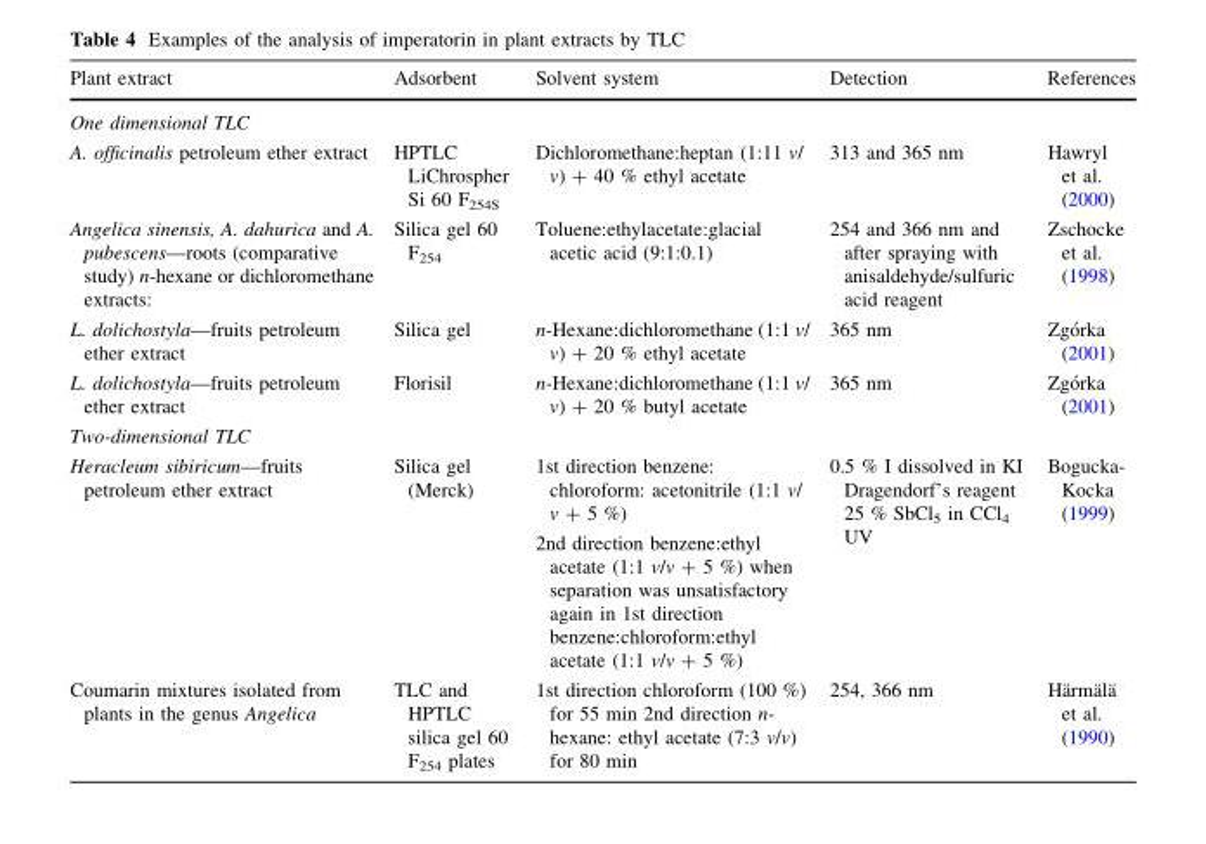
<table><thead><tr><td>Plant extract</td><td>Adsorbent</td><td>Solvent system</td><td>Detection</td><td>References</td></tr></thead><tbody><tr><td colspan="5">One dimensional TLC</td></tr><tr><td>A. officinalis petroleum ether extract</td><td>HPTLC LiChrospher Si 60 F<sub>254S</sub></td><td>Dichloromethane:heptan (1:11 v/ v) + 40 % ethyl acetate</td><td>313 and 365 nm</td><td>Hawryl et al. (2000)</td></tr><tr><td>Angelica sinensis, A. dahurica and A. pubescens—roots (comparative study) n-hexane or dichloromethane extracts:</td><td>Silica gel 60 F<sub>254</sub></td><td>Toluene:ethylacetate:glacial acetic acid (9:1:0.1)</td><td>254 and 366 nm and after spraying with anisaldehyde/sulfuric acid reagent</td><td>Zschocke et al. (1998)</td></tr><tr><td>L. dolichostyla—fruits petroleum ether extract</td><td>Silica gel</td><td>n-Hexane:dichloromethane (1:1 v/ v) + 20 % ethyl acetate</td><td>365 nm</td><td>Zgo´rka (2001)</td></tr><tr><td>L. dolichostyla—fruits petroleum ether extract</td><td>Florisil</td><td>n-Hexane:dichloromethane (1:1 v/ v) + 20 % butyl acetate</td><td>365 nm</td><td>Zgo´rka (2001)</td></tr><tr><td colspan="5">Two-dimensional TLC</td></tr><tr><td rowspan="2">Heracleum sibiricum—fruits petroleum ether extract</td><td rowspan="2">Silica gel (Merck)</td><td>1st direction benzene: chloroform: acetonitrile (1:1 v/ v + 5 %)</td><td rowspan="2">0.5 % I dissolved in KI Dragendorf’s reagent 25 % SbCl<sub>5</sub> in CCl<sub>4</sub> UV</td><td rowspan="2">Bogucka- Kocka (1999)</td></tr><tr><td>2nd direction benzene:ethyl acetate (1:1 v/v + 5 %) when separation was unsatisfactory again in 1st direction benzene:chloroform:ethyl acetate (1:1 v/v + 5 %)</td></tr><tr><td>Coumarin mixtures isolated from plants in the genus Angelica</td><td>TLC and HPTLC silica gel 60 F<sub>254</sub> plates</td><td>1st direction chloroform (100 %) for 55 min 2nd direction n- hexane: ethyl acetate (7:3 v/v) for 80 min</td><td>254, 366 nm</td><td>Ha¨rma¨la¨ et al. (1990)</td></tr></tbody></table>